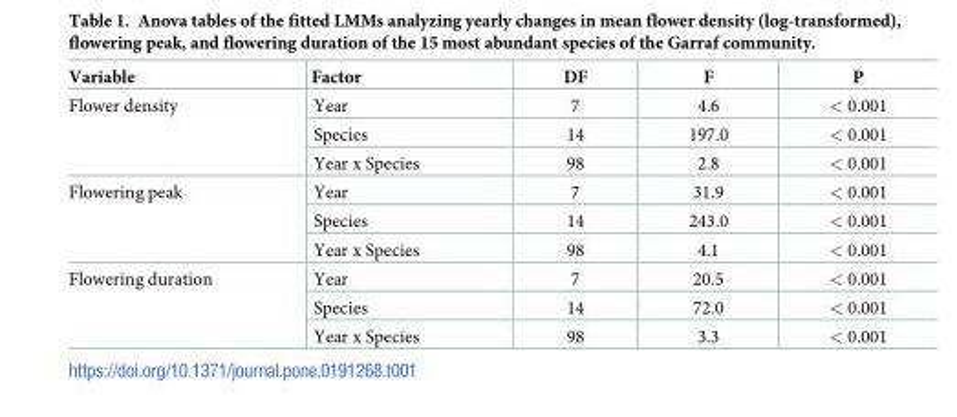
<table><thead><tr><td>Variable</td><td>Factor</td><td>DF</td><td>F</td><td>P</td></tr></thead><tbody><tr><td rowspan="3">Flower density</td><td>Year</td><td>7</td><td>4.6</td><td>&lt; 0.001</td></tr><tr><td>Species</td><td>14</td><td>197.0</td><td>&lt; 0.001</td></tr><tr><td>Year x Species</td><td>98</td><td>2.8</td><td>&lt; 0.001</td></tr><tr><td rowspan="3">Flowering peak</td><td>Year</td><td>7</td><td>31.9</td><td>&lt; 0.001</td></tr><tr><td>Species</td><td>14</td><td>243.0</td><td>&lt; 0.001</td></tr><tr><td>Year x Species</td><td>98</td><td>4.1</td><td>&lt; 0.001</td></tr><tr><td rowspan="3">Flowering duration</td><td>Year</td><td>7</td><td>20.5</td><td>&lt; 0.001</td></tr><tr><td>Species</td><td>14</td><td>72.0</td><td>&lt; 0.001</td></tr><tr><td>Year x Species</td><td>98</td><td>3.3</td><td>&lt; 0.001</td></tr></tbody></table>